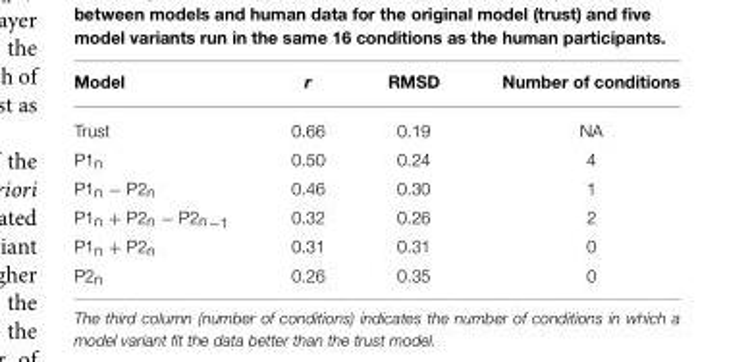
<table><thead><tr><td>Model</td><td>r</td><td>RMSD</td><td>Number of conditions</td></tr></thead><tbody><tr><td>Trust</td><td>0.66</td><td>0.19</td><td>NA</td></tr><tr><td>P1<sub>n</sub></td><td>0.50</td><td>0.24</td><td>4</td></tr><tr><td>P1<sub>n</sub> − P2<sub>n</sub></td><td>0.46</td><td>0.30</td><td>1</td></tr><tr><td>P1<sub>n</sub> + P2<sub>n</sub> − P2<sub>n−1</sub></td><td>0.32</td><td>0.26</td><td>2</td></tr><tr><td>P1<sub>n</sub> + P2<sub>n</sub></td><td>0.31</td><td>0.31</td><td>0</td></tr><tr><td>P2<sub>n</sub></td><td>0.26</td><td>0.35</td><td>0</td></tr></tbody></table>